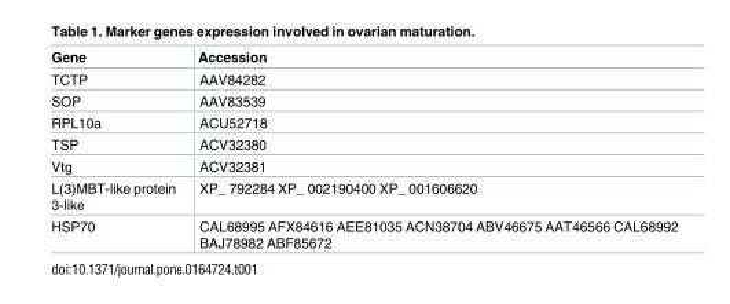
<table><thead><tr><td>Gene</td><td>Accession</td></tr></thead><tbody><tr><td>TCTP</td><td>AAV84282</td></tr><tr><td>SOP</td><td>AAV83539</td></tr><tr><td>RPL10a</td><td>ACU52718</td></tr><tr><td>TSP</td><td>ACV32380</td></tr><tr><td>Vtg</td><td>ACV32381</td></tr><tr><td>L(3)MBT-like protein 3-like</td><td>XP_ 792284 XP_ 002190400 XP_ 001606620</td></tr><tr><td>HSP70</td><td>CAL68995 AFX84616 AEE81035 ACN38704 ABV46675 AAT46566 CAL68992 BAJ78982 ABF85672</td></tr></tbody></table>